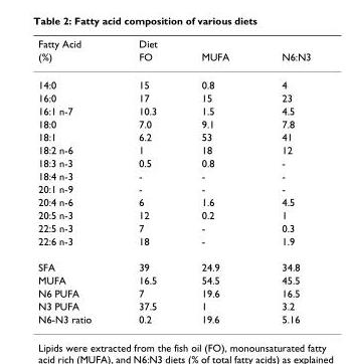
<table><thead><tr><td rowspan="2">Fatty Acid (%)</td><td rowspan="2">Diet FO</td><td rowspan="2">MUFA</td><td rowspan="2">N6:N3</td></tr><tr></tr></thead><tbody><tr><td>14:0</td><td>15</td><td>0.8</td><td>4</td></tr><tr><td>16:0</td><td>17</td><td>15</td><td>23</td></tr><tr><td>16:1 n-7</td><td>10.3</td><td>1.5</td><td>4.5</td></tr><tr><td>18:0</td><td>7.0</td><td>9.1</td><td>7.8</td></tr><tr><td>18:1</td><td>6.2</td><td>53</td><td>41</td></tr><tr><td>18:2 n-6</td><td>1</td><td>18</td><td>12</td></tr><tr><td>18:3 n-3</td><td>0.5</td><td>0.8</td><td>-</td></tr><tr><td>18:4 n-3</td><td>-</td><td>-</td><td>-</td></tr><tr><td>20:1 n-9</td><td>-</td><td>-</td><td>-</td></tr><tr><td>20:4 n-6</td><td>6</td><td>1.6</td><td>4.5</td></tr><tr><td>20:5 n-3</td><td>12</td><td>0.2</td><td>1</td></tr><tr><td>22:5 n-3</td><td>7</td><td>-</td><td>0.3</td></tr><tr><td>22:6 n-3</td><td>18</td><td>-</td><td>1.9</td></tr><tr><td>SFA</td><td>39</td><td>24.9</td><td>34.8</td></tr><tr><td>MUFA</td><td>16.5</td><td>54.5</td><td>45.5</td></tr><tr><td>N6 PUFA</td><td>7</td><td>19.6</td><td>16.5</td></tr><tr><td>N3 PUFA</td><td>37.5</td><td>1</td><td>3.2</td></tr><tr><td>N6-N3 ratio</td><td>0.2</td><td>19.6</td><td>5.16</td></tr></tbody></table>